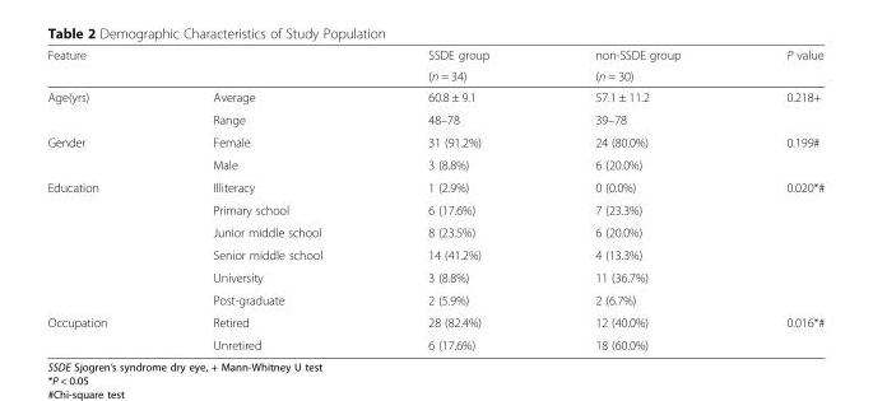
<table><thead><tr><td rowspan="2">Feature</td><td rowspan="2"></td><td rowspan="2">SSDE group (n = 34)</td><td rowspan="2">non-SSDE group (n = 30)</td><td rowspan="2">P value</td></tr><tr></tr></thead><tbody><tr><td rowspan="2">Age(yrs)</td><td>Average</td><td>60.8 ± 9.1</td><td>57.1 ± 11.2</td><td rowspan="2">0.218+</td></tr><tr><td>Range</td><td>48–78</td><td>39–78</td></tr><tr><td rowspan="2">Gender</td><td>Female</td><td>31 (91.2%)</td><td>24 (80.0%)</td><td rowspan="2">0.199#</td></tr><tr><td>Male</td><td>3 (8.8%)</td><td>6 (20.0%)</td></tr><tr><td rowspan="6">Education</td><td>Illiteracy</td><td>1 (2.9%)</td><td>0 (0.0%)</td><td rowspan="6">0.020*#</td></tr><tr><td>Primary school</td><td>6 (17.6%)</td><td>7 (23.3%)</td></tr><tr><td>Junior middle school</td><td>8 (23.5%)</td><td>6 (20.0%)</td></tr><tr><td>Senior middle school</td><td>14 (41.2%)</td><td>4 (13.3%)</td></tr><tr><td>University</td><td>3 (8.8%)</td><td>11 (36.7%)</td></tr><tr><td>Post-graduate</td><td>2 (5.9%)</td><td>2 (6.7%)</td></tr><tr><td rowspan="2">Occupation</td><td>Retired</td><td>28 (82.4%)</td><td>12 (40.0%)</td><td rowspan="2">0.016*#</td></tr><tr><td>Unretired</td><td>6 (17.6%)</td><td>18 (60.0%)</td></tr></tbody></table>